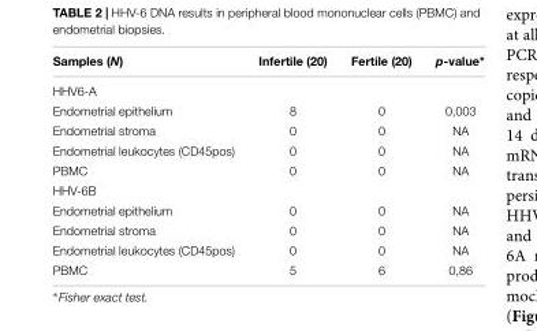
<table><thead><tr><td>Samples (N)</td><td>Infertile (20)</td><td>Fertile (20)</td><td>p-value∗</td></tr></thead><tbody><tr><td colspan="4">HHV6-A</td></tr><tr><td>Endometrial epithelium</td><td>8</td><td>0</td><td>0,003</td></tr><tr><td>Endometrial stroma</td><td>0</td><td>0</td><td>NA</td></tr><tr><td>Endometrial leukocytes (CD45pos)</td><td>0</td><td>0</td><td>NA</td></tr><tr><td>PBMC</td><td>0</td><td>0</td><td>NA</td></tr><tr><td colspan="4">HHV-6B</td></tr><tr><td>Endometrial epithelium</td><td>0</td><td>0</td><td>NA</td></tr><tr><td>Endometrial stroma</td><td>0</td><td>0</td><td>NA</td></tr><tr><td>Endometrial leukocytes (CD45pos)</td><td>0</td><td>0</td><td>NA</td></tr><tr><td>PBMC</td><td>5</td><td>6</td><td>0,86</td></tr></tbody></table>